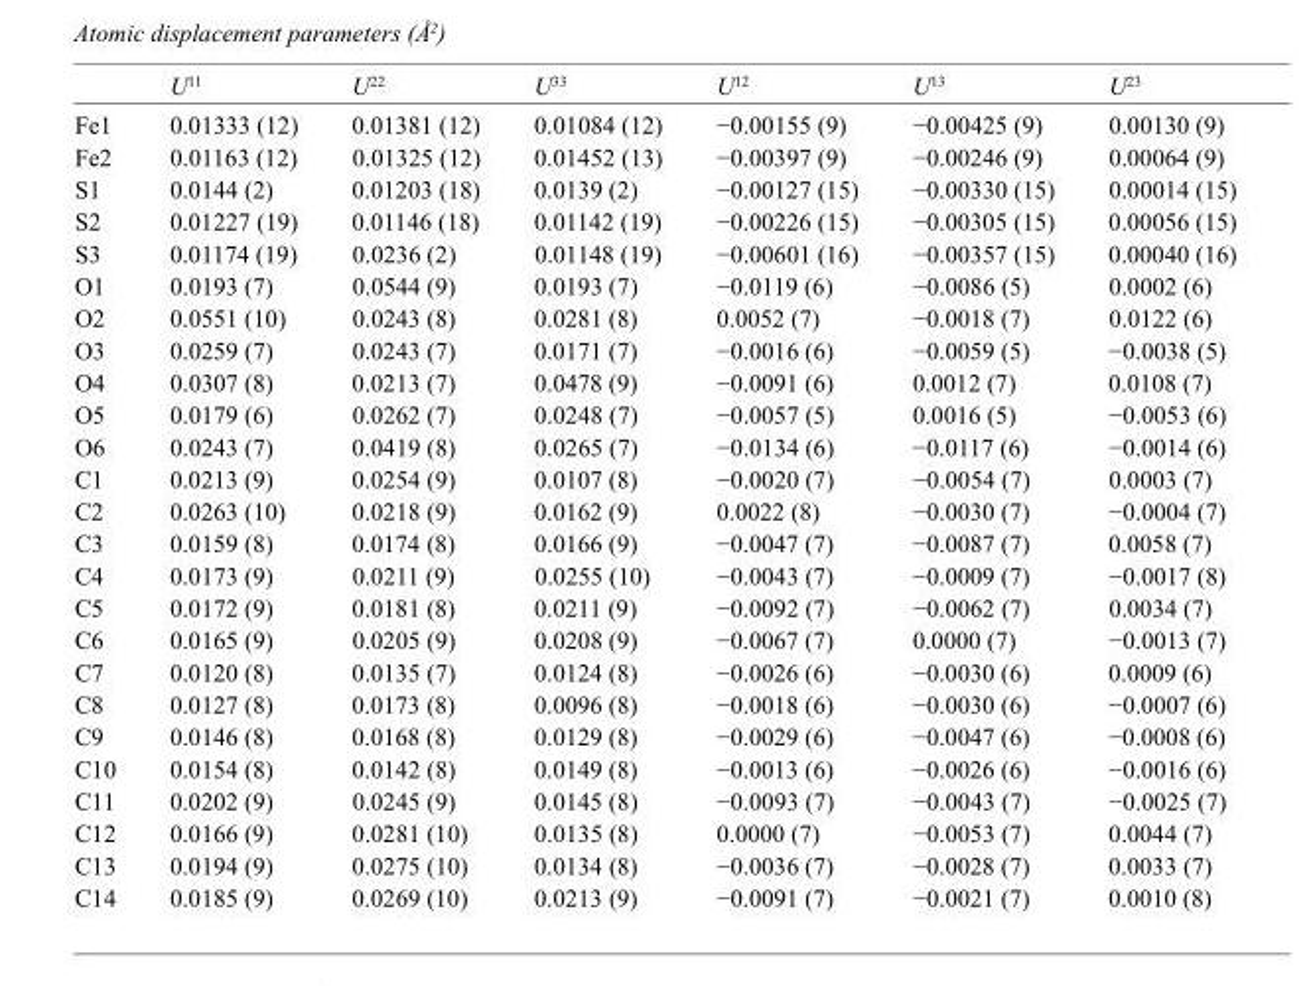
<table><thead><tr><td></td><td>U<sup>11</sup></td><td>U<sup>22</sup></td><td>U<sup>33</sup></td><td>U<sup>12</sup></td><td>U<sup>13</sup></td><td>U<sup>23</sup></td></tr></thead><tbody><tr><td>Fe1</td><td>0.01333 (12)</td><td>0.01381 (12)</td><td>0.01084 (12)</td><td>−0.00155 (9)</td><td>−0.00425 (9)</td><td>0.00130 (9)</td></tr><tr><td>Fe2</td><td>0.01163 (12)</td><td>0.01325 (12)</td><td>0.01452 (13)</td><td>−0.00397 (9)</td><td>−0.00246 (9)</td><td>0.00064 (9)</td></tr><tr><td>S1</td><td>0.0144 (2)</td><td>0.01203 (18)</td><td>0.0139 (2)</td><td>−0.00127 (15)</td><td>−0.00330 (15)</td><td>0.00014 (15)</td></tr><tr><td>S2</td><td>0.01227 (19)</td><td>0.01146 (18)</td><td>0.01142 (19)</td><td>−0.00226 (15)</td><td>−0.00305 (15)</td><td>0.00056 (15)</td></tr><tr><td>S3</td><td>0.01174 (19)</td><td>0.0236 (2)</td><td>0.01148 (19)</td><td>−0.00601 (16)</td><td>−0.00357 (15)</td><td>0.00040 (16)</td></tr><tr><td>O1</td><td>0.0193 (7)</td><td>0.0544 (9)</td><td>0.0193 (7)</td><td>−0.0119 (6)</td><td>−0.0086 (5)</td><td>0.0002 (6)</td></tr><tr><td>O2</td><td>0.0551 (10)</td><td>0.0243 (8)</td><td>0.0281 (8)</td><td>0.0052 (7)</td><td>−0.0018 (7)</td><td>0.0122 (6)</td></tr><tr><td>O3</td><td>0.0259 (7)</td><td>0.0243 (7)</td><td>0.0171 (7)</td><td>−0.0016 (6)</td><td>−0.0059 (5)</td><td>−0.0038 (5)</td></tr><tr><td>O4</td><td>0.0307 (8)</td><td>0.0213 (7)</td><td>0.0478 (9)</td><td>−0.0091 (6)</td><td>0.0012 (7)</td><td>0.0108 (7)</td></tr><tr><td>O5</td><td>0.0179 (6)</td><td>0.0262 (7)</td><td>0.0248 (7)</td><td>−0.0057 (5)</td><td>0.0016 (5)</td><td>−0.0053 (6)</td></tr><tr><td>O6</td><td>0.0243 (7)</td><td>0.0419 (8)</td><td>0.0265 (7)</td><td>−0.0134 (6)</td><td>−0.0117 (6)</td><td>−0.0014 (6)</td></tr><tr><td>C1</td><td>0.0213 (9)</td><td>0.0254 (9)</td><td>0.0107 (8)</td><td>−0.0020 (7)</td><td>−0.0054 (7)</td><td>0.0003 (7)</td></tr><tr><td>C2</td><td>0.0263 (10)</td><td>0.0218 (9)</td><td>0.0162 (9)</td><td>0.0022 (8)</td><td>−0.0030 (7)</td><td>−0.0004 (7)</td></tr><tr><td>C3</td><td>0.0159 (8)</td><td>0.0174 (8)</td><td>0.0166 (9)</td><td>−0.0047 (7)</td><td>−0.0087 (7)</td><td>0.0058 (7)</td></tr><tr><td>C4</td><td>0.0173 (9)</td><td>0.0211 (9)</td><td>0.0255 (10)</td><td>−0.0043 (7)</td><td>−0.0009 (7)</td><td>−0.0017 (8)</td></tr><tr><td>C5</td><td>0.0172 (9)</td><td>0.0181 (8)</td><td>0.0211 (9)</td><td>−0.0092 (7)</td><td>−0.0062 (7)</td><td>0.0034 (7)</td></tr><tr><td>C6</td><td>0.0165 (9)</td><td>0.0205 (9)</td><td>0.0208 (9)</td><td>−0.0067 (7)</td><td>0.0000 (7)</td><td>−0.0013 (7)</td></tr><tr><td>C7</td><td>0.0120 (8)</td><td>0.0135 (7)</td><td>0.0124 (8)</td><td>−0.0026 (6)</td><td>−0.0030 (6)</td><td>0.0009 (6)</td></tr><tr><td>C8</td><td>0.0127 (8)</td><td>0.0173 (8)</td><td>0.0096 (8)</td><td>−0.0018 (6)</td><td>−0.0030 (6)</td><td>−0.0007 (6)</td></tr><tr><td>C9</td><td>0.0146 (8)</td><td>0.0168 (8)</td><td>0.0129 (8)</td><td>−0.0029 (6)</td><td>−0.0047 (6)</td><td>−0.0008 (6)</td></tr><tr><td>C10</td><td>0.0154 (8)</td><td>0.0142 (8)</td><td>0.0149 (8)</td><td>−0.0013 (6)</td><td>−0.0026 (6)</td><td>−0.0016 (6)</td></tr><tr><td>C11</td><td>0.0202 (9)</td><td>0.0245 (9)</td><td>0.0145 (8)</td><td>−0.0093 (7)</td><td>−0.0043 (7)</td><td>−0.0025 (7)</td></tr><tr><td>C12</td><td>0.0166 (9)</td><td>0.0281 (10)</td><td>0.0135 (8)</td><td>0.0000 (7)</td><td>−0.0053 (7)</td><td>0.0044 (7)</td></tr><tr><td>C13</td><td>0.0194 (9)</td><td>0.0275 (10)</td><td>0.0134 (8)</td><td>−0.0036 (7)</td><td>−0.0028 (7)</td><td>0.0033 (7)</td></tr><tr><td>C14</td><td>0.0185 (9)</td><td>0.0269 (10)</td><td>0.0213 (9)</td><td>−0.0091 (7)</td><td>−0.0021 (7)</td><td>0.0010 (8)</td></tr></tbody></table>